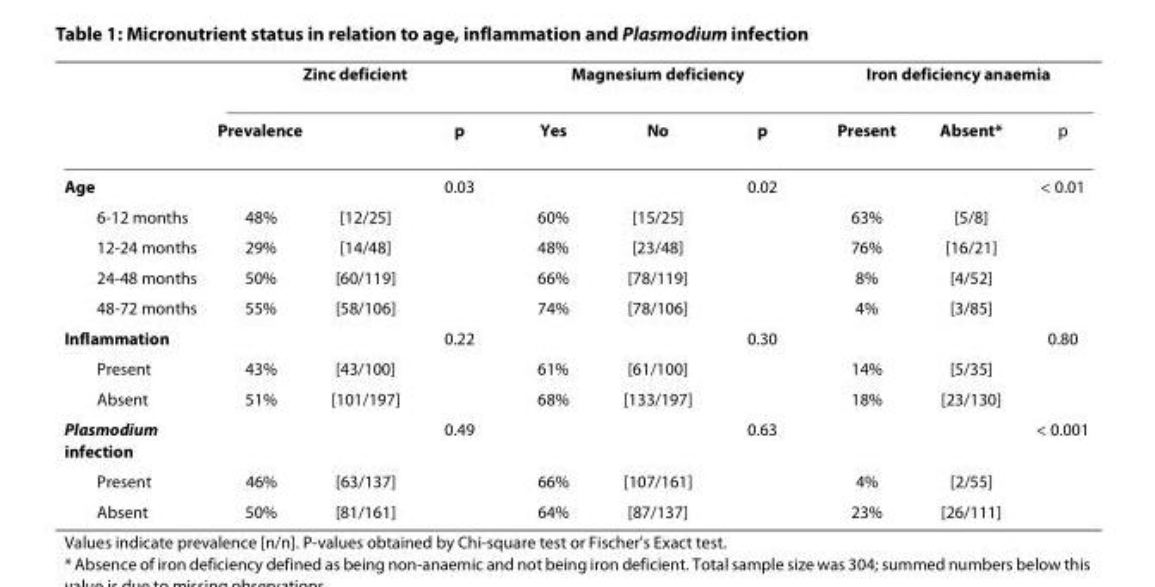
<table><thead><tr><td rowspan="3">Age</td><td colspan="3">Zinc deficient</td><td colspan="3">Magnesium deficiency</td><td colspan="3">Iron deficiency anaemia</td></tr><tr><td colspan="2">Prevalence</td><td rowspan="2">p 0.03</td><td rowspan="2">Yes</td><td rowspan="2">No</td><td rowspan="2">p 0.02</td><td rowspan="2">Present</td><td rowspan="2">Absent*</td><td rowspan="2">p &lt; 0.01</td></tr><tr><td></td><td></td></tr></thead><tbody><tr><td>6-12 months</td><td>48%</td><td>[12/25]</td><td></td><td>60%</td><td>[15/25]</td><td></td><td>63%</td><td>[5/8]</td><td></td></tr><tr><td>12-24 months</td><td>29%</td><td>[14/48]</td><td></td><td>48%</td><td>[23/48]</td><td></td><td>76%</td><td>[16/21]</td><td></td></tr><tr><td>24-48 months</td><td>50%</td><td>[60/119]</td><td></td><td>66%</td><td>[78/119]</td><td></td><td>8%</td><td>[4/52]</td><td></td></tr><tr><td>48-72 months</td><td>55%</td><td>[58/106]</td><td></td><td>74%</td><td>[78/106]</td><td></td><td>4%</td><td>[3/85]</td><td></td></tr><tr><td>Inflammation</td><td></td><td></td><td>0.22</td><td></td><td></td><td>0.30</td><td></td><td></td><td>0.80</td></tr><tr><td>Present</td><td>43%</td><td>[43/100]</td><td></td><td>61%</td><td>[61/100]</td><td></td><td>14%</td><td>[5/35]</td><td></td></tr><tr><td>Absent</td><td>51%</td><td>[101/197]</td><td></td><td>68%</td><td>[133/197]</td><td></td><td>18%</td><td>[23/130]</td><td></td></tr><tr><td>Plasmodium infection</td><td></td><td></td><td>0.49</td><td></td><td></td><td>0.63</td><td></td><td></td><td>&lt; 0.001</td></tr><tr><td>Present</td><td>46%</td><td>[63/137]</td><td></td><td>66%</td><td>[107/161]</td><td></td><td>4%</td><td>[2/55]</td><td></td></tr><tr><td>Absent</td><td>50%</td><td>[81/161]</td><td></td><td>64%</td><td>[87/137]</td><td></td><td>23%</td><td>[26/111]</td><td></td></tr></tbody></table>